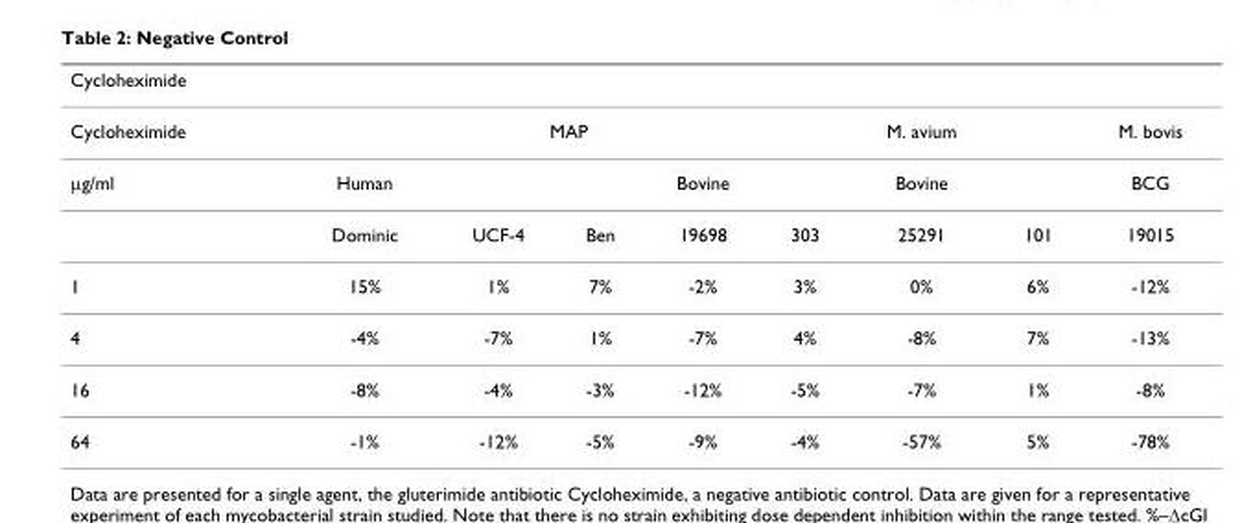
<table><thead><tr><td>Cycloheximide</td><td></td><td></td><td></td><td></td><td></td><td></td><td></td><td></td></tr></thead><tbody><tr><td>Cycloheximide</td><td colspan="5">MAP</td><td>M. avium</td><td></td><td>M. bovis</td></tr><tr><td rowspan="2">μg/ml</td><td>Human</td><td></td><td></td><td>Bovine</td><td></td><td>Bovine</td><td></td><td>BCG</td></tr><tr><td>Dominic</td><td>UCF-4</td><td>Ben</td><td>19698</td><td>303</td><td>25291</td><td>101</td><td>19015</td></tr><tr><td>1</td><td>15%</td><td>1%</td><td>7%</td><td>-2%</td><td>3%</td><td>0%</td><td>6%</td><td>-12%</td></tr><tr><td>4</td><td>-4%</td><td>-7%</td><td>1%</td><td>-7%</td><td>4%</td><td>-8%</td><td>7%</td><td>-13%</td></tr><tr><td>16</td><td>-8%</td><td>-4%</td><td>-3%</td><td>-12%</td><td>-5%</td><td>-7%</td><td>1%</td><td>-8%</td></tr><tr><td>64</td><td>-1%</td><td>-12%</td><td>-5%</td><td>-9%</td><td>-4%</td><td>-57%</td><td>5%</td><td>-78%</td></tr></tbody></table>